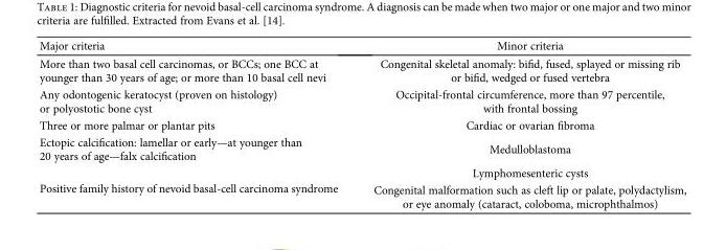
<table><thead><tr><td>Major criteria</td><td>Minor criteria</td></tr></thead><tbody><tr><td>More than two basal cell carcinomas, or BCCs; one BCC at younger than 30 years of age; or more than 10 basal cell nevi</td><td>Congenital skeletal anomaly: bifid, fused, splayed or missing rib or bifid, wedged or fused vertebra</td></tr><tr><td>Any odontogenic keratocyst (proven on histology) or polyostotic bone cyst</td><td>Occipital-frontal circumference, more than 97 percentile, with frontal bossing</td></tr><tr><td>Three or more palmar or plantar pits</td><td>Cardiac or ovarian fibroma</td></tr><tr><td>Ectopic calcification: lamellar or early—at younger than 20 years of age—falx calcification</td><td>Medulloblastoma</td></tr><tr><td rowspan="2">Positive family history of nevoid basal-cell carcinoma syndrome</td><td>Lymphomesenteric cysts</td></tr><tr><td>Congenital malformation such as cleft lip or palate, polydactylism, or eye anomaly (cataract, coloboma, microphthalmos)</td></tr></tbody></table>